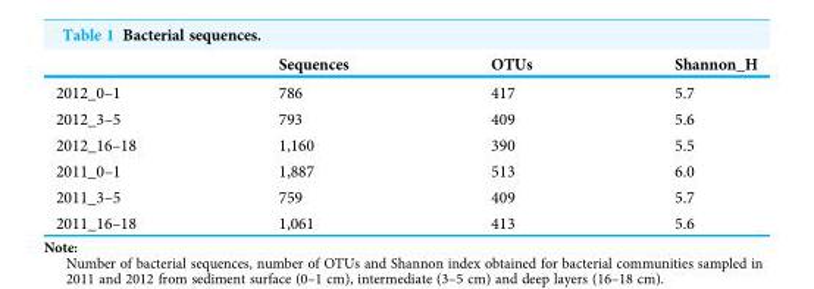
<table><thead><tr><td></td><td>Sequences</td><td>OTUs</td><td>Shannon_H</td></tr></thead><tbody><tr><td>2012_0–1</td><td>786</td><td>417</td><td>5.7</td></tr><tr><td>2012_3–5</td><td>793</td><td>409</td><td>5.6</td></tr><tr><td>2012_16–18</td><td>1,160</td><td>390</td><td>5.5</td></tr><tr><td>2011_0–1</td><td>1,887</td><td>513</td><td>6.0</td></tr><tr><td>2011_3–5</td><td>759</td><td>409</td><td>5.7</td></tr><tr><td>2011_16–18</td><td>1,061</td><td>413</td><td>5.6</td></tr></tbody></table>